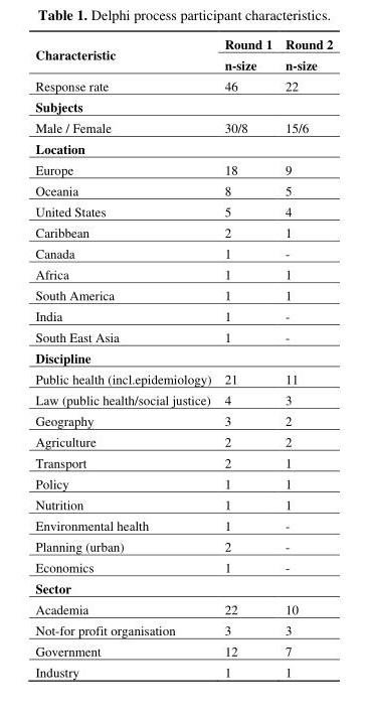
<table><thead><tr><td rowspan="2">Characteristic</td><td rowspan="2">Round 1 n-size</td><td rowspan="2">Round 2 n-size</td></tr><tr></tr></thead><tbody><tr><td>Response rate</td><td>46</td><td>22</td></tr><tr><td colspan="3">Subjects</td></tr><tr><td>Male / Female</td><td>30/8</td><td>15/6</td></tr><tr><td colspan="3">Location</td></tr><tr><td>Europe</td><td>18</td><td>9</td></tr><tr><td>Oceania</td><td>8</td><td>5</td></tr><tr><td>United States</td><td>5</td><td>4</td></tr><tr><td>Caribbean</td><td>2</td><td>1</td></tr><tr><td>Canada</td><td>1</td><td>-</td></tr><tr><td>Africa</td><td>1</td><td>1</td></tr><tr><td>South America</td><td>1</td><td>1</td></tr><tr><td>India</td><td>1</td><td>-</td></tr><tr><td>South East Asia</td><td>1</td><td>-</td></tr><tr><td colspan="3">Discipline</td></tr><tr><td>Public health (incl.epidemiology)</td><td>21</td><td>11</td></tr><tr><td>Law (public health/social justice)</td><td>4</td><td>3</td></tr><tr><td>Geography</td><td>3</td><td>2</td></tr><tr><td>Agriculture</td><td>2</td><td>2</td></tr><tr><td>Transport</td><td>2</td><td>1</td></tr><tr><td>Policy</td><td>1</td><td>1</td></tr><tr><td>Nutrition</td><td>1</td><td>1</td></tr><tr><td>Environmental health</td><td>1</td><td>-</td></tr><tr><td>Planning (urban)</td><td>2</td><td>-</td></tr><tr><td>Economics</td><td>1</td><td>-</td></tr><tr><td colspan="3">Sector</td></tr><tr><td>Academia</td><td>22</td><td>10</td></tr><tr><td>Not-for profit organisation</td><td>3</td><td>3</td></tr><tr><td>Government</td><td>12</td><td>7</td></tr><tr><td>Industry</td><td>1</td><td>1</td></tr></tbody></table>